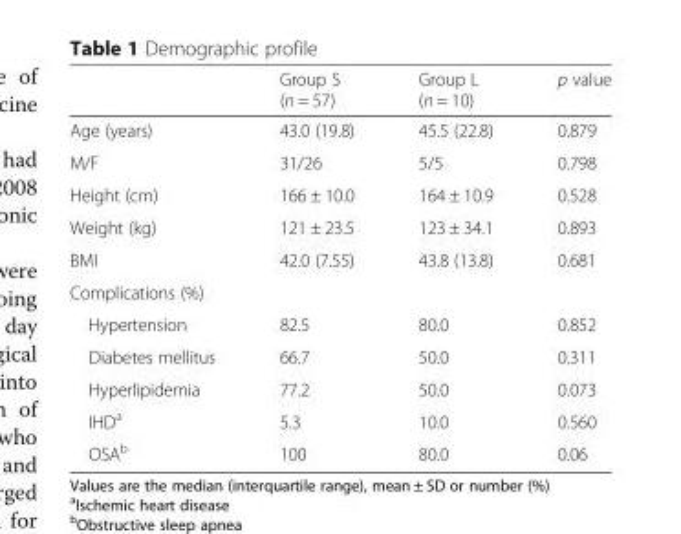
<table><thead><tr><td></td><td>Group S (n = 57)</td><td>Group L (n = 10)</td><td>p value</td></tr></thead><tbody><tr><td>Age (years)</td><td>43.0 (19.8)</td><td>45.5 (22.8)</td><td>0.879</td></tr><tr><td>M/F</td><td>31/26</td><td>5/5</td><td>0.798</td></tr><tr><td>Height (cm)</td><td>166 ± 10.0</td><td>164 ± 10.9</td><td>0.528</td></tr><tr><td>Weight (kg)</td><td>121 ± 23.5</td><td>123 ± 34.1</td><td>0.893</td></tr><tr><td>BMI</td><td>42.0 (7.55)</td><td>43.8 (13.8)</td><td>0.681</td></tr><tr><td colspan="4">Complications (%)</td></tr><tr><td>Hypertension</td><td>82.5</td><td>80.0</td><td>0.852</td></tr><tr><td>Diabetes mellitus</td><td>66.7</td><td>50.0</td><td>0.311</td></tr><tr><td>Hyperlipidemia</td><td>77.2</td><td>50.0</td><td>0.073</td></tr><tr><td>IHD<sup>a</sup></td><td>5.3</td><td>10.0</td><td>0.560</td></tr><tr><td>OSA<sup>b</sup></td><td>100</td><td>80.0</td><td>0.06</td></tr></tbody></table>